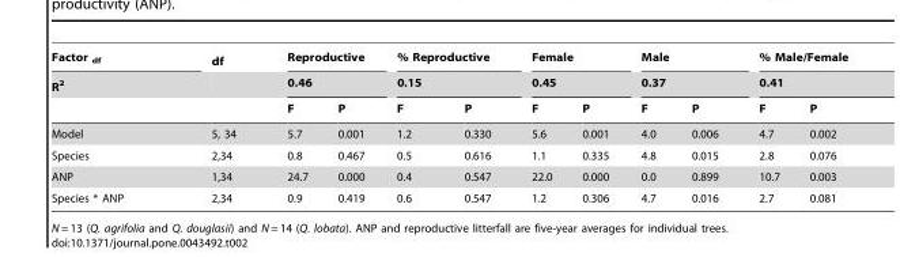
<table><thead><tr><td rowspan="3">Factor <sub>df</sub> R<sup>2</sup></td><td rowspan="3">df</td><td rowspan="2" colspan="2">Reproductive 0.46</td><td rowspan="2" colspan="2">% Reproductive 0.15</td><td rowspan="2" colspan="2">Female 0.45</td><td rowspan="2" colspan="2">Male 0.37</td><td rowspan="2" colspan="2">% Male/Female 0.41</td></tr><tr></tr><tr><td>F</td><td>P</td><td>F</td><td>P</td><td>F</td><td>P</td><td>F</td><td>P</td><td>F</td><td>P</td></tr></thead><tbody><tr><td>Model</td><td>5, 34</td><td>5.7</td><td>0.001</td><td>1.2</td><td>0.330</td><td>5.6</td><td>0.001</td><td>4.0</td><td>0.006</td><td>4.7</td><td>0.002</td></tr><tr><td>Species</td><td>2,34</td><td>0.8</td><td>0.467</td><td>0.5</td><td>0.616</td><td>1.1</td><td>0.335</td><td>4.8</td><td>0.015</td><td>2.8</td><td>0.076</td></tr><tr><td>ANP</td><td>1,34</td><td>24.7</td><td>0.000</td><td>0.4</td><td>0.547</td><td>22.0</td><td>0.000</td><td>0.0</td><td>0.899</td><td>10.7</td><td>0.003</td></tr><tr><td>Species * ANP</td><td>2,34</td><td>0.9</td><td>0.419</td><td>0.6</td><td>0.547</td><td>1.2</td><td>0.306</td><td>4.7</td><td>0.016</td><td>2.7</td><td>0.081</td></tr></tbody></table>